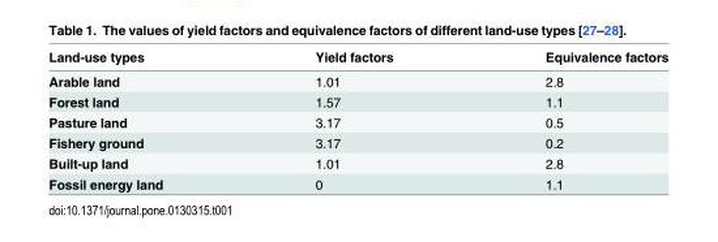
<table><thead><tr><td>Land-use types</td><td>Yield factors</td><td>Equivalence factors</td></tr></thead><tbody><tr><td>Arable land</td><td>1.01</td><td>2.8</td></tr><tr><td>Forest land</td><td>1.57</td><td>1.1</td></tr><tr><td>Pasture land</td><td>3.17</td><td>0.5</td></tr><tr><td>Fishery ground</td><td>3.17</td><td>0.2</td></tr><tr><td>Built-up land</td><td>1.01</td><td>2.8</td></tr><tr><td>Fossil energy land</td><td>0</td><td>1.1</td></tr></tbody></table>